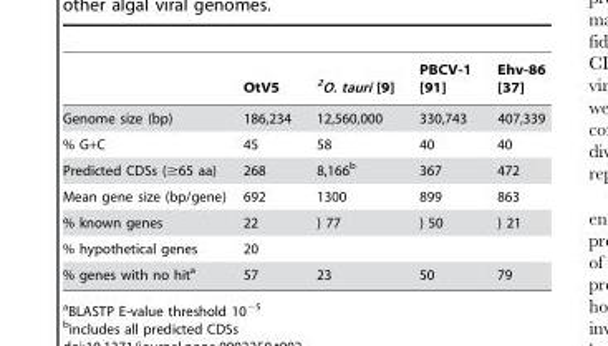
<table><thead><tr><td></td><td>OtV5</td><td><sup>2</sup>O. tauri [9]</td><td>PBCV-1 [91]</td><td>Ehv-86 [37]</td></tr></thead><tbody><tr><td>Genome size (bp)</td><td>186,234</td><td>12,560,000</td><td>330,743</td><td>407,339</td></tr><tr><td>% G+C</td><td>45</td><td>58</td><td>40</td><td>40</td></tr><tr><td>Predicted CDSs (≥65 aa)</td><td>268</td><td>8,166<sup>b</sup></td><td>367</td><td>472</td></tr><tr><td>Mean gene size (bp/gene)</td><td>692</td><td>1300</td><td>899</td><td>863</td></tr><tr><td>% known genes</td><td>22</td><td>} 77</td><td>} 50</td><td>} 21</td></tr><tr><td>% hypothetical genes</td><td>20</td><td></td><td></td><td></td></tr><tr><td>% genes with no hit<sup>a</sup></td><td>57</td><td>23</td><td>50</td><td>79</td></tr></tbody></table>